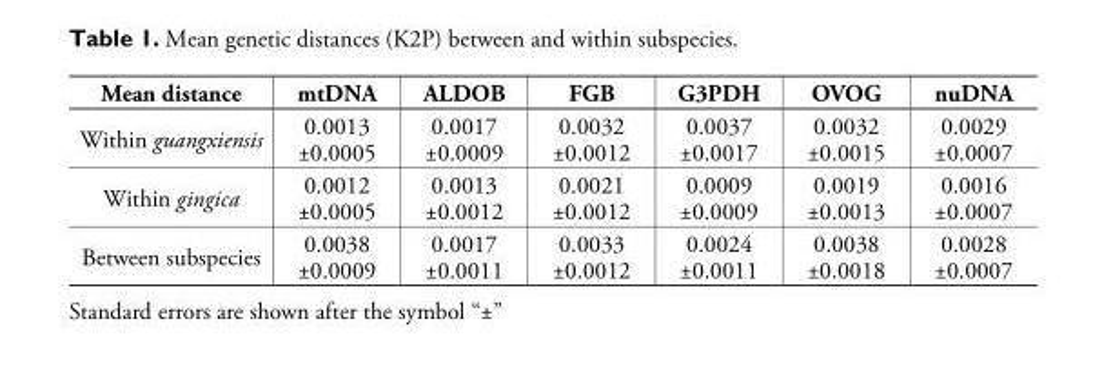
<table><thead><tr><td>Mean distance</td><td>mtDNA</td><td>ALDOB</td><td>FGB</td><td>G3PDH</td><td>OVOG</td><td>nuDNA</td></tr></thead><tbody><tr><td>Within guangxiensis</td><td>0.0013 ±0.0005</td><td>0.0017 ±0.0009</td><td>0.0032 ±0.0012</td><td>0.0037 ±0.0017</td><td>0.0032 ±0.0015</td><td>0.0029 ±0.0007</td></tr><tr><td>Within gingica</td><td>0.0012 ±0.0005</td><td>0.0013 ±0.0012</td><td>0.0021 ±0.0012</td><td>0.0009 ±0.0009</td><td>0.0019 ±0.0013</td><td>0.0016 ±0.0007</td></tr><tr><td>Between subspecies</td><td>0.0038 ±0.0009</td><td>0.0017 ±0.0011</td><td>0.0033 ±0.0012</td><td>0.0024 ±0.0011</td><td>0.0038 ±0.0018</td><td>0.0028 ±0.0007</td></tr></tbody></table>